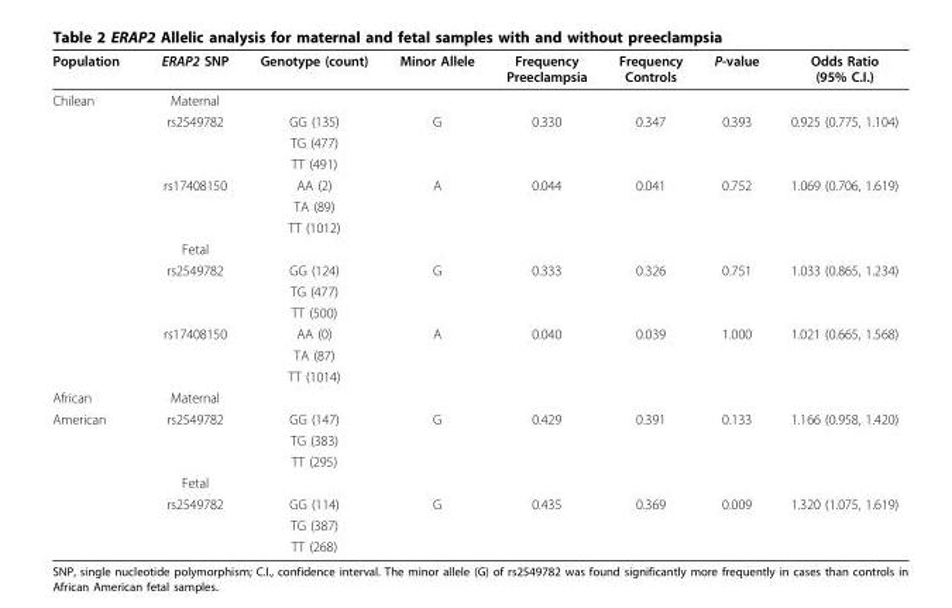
<table><thead><tr><td>Population</td><td>ERAP2 SNP</td><td>Genotype (count)</td><td>Minor Allele</td><td>Frequency Preeclampsia</td><td>Frequency Controls</td><td>P-value</td><td>Odds Ratio (95% C.I.)</td></tr></thead><tbody><tr><td rowspan="14">Chilean</td><td>Maternal</td><td></td><td></td><td></td><td></td><td></td><td></td></tr><tr><td>rs2549782</td><td>GG (135)</td><td>G</td><td>0.330</td><td>0.347</td><td>0.393</td><td>0.925 (0.775, 1.104)</td></tr><tr><td></td><td>TG (477)</td><td></td><td></td><td></td><td></td><td></td></tr><tr><td></td><td>TT (491)</td><td></td><td></td><td></td><td></td><td></td></tr><tr><td>rs17408150</td><td>AA (2)</td><td>A</td><td>0.044</td><td>0.041</td><td>0.752</td><td>1.069 (0.706, 1.619)</td></tr><tr><td></td><td>TA (89)</td><td></td><td></td><td></td><td></td><td></td></tr><tr><td></td><td>TT (1012)</td><td></td><td></td><td></td><td></td><td></td></tr><tr><td>Fetal</td><td></td><td></td><td></td><td></td><td></td><td></td></tr><tr><td>rs2549782</td><td>GG (124)</td><td>G</td><td>0.333</td><td>0.326</td><td>0.751</td><td>1.033 (0.865, 1.234)</td></tr><tr><td></td><td>TG (477)</td><td></td><td></td><td></td><td></td><td></td></tr><tr><td></td><td>TT (500)</td><td></td><td></td><td></td><td></td><td></td></tr><tr><td>rs17408150</td><td>AA (0)</td><td>A</td><td>0.040</td><td>0.039</td><td>1.000</td><td>1.021 (0.665, 1.568)</td></tr><tr><td></td><td>TA (87)</td><td></td><td></td><td></td><td></td><td></td></tr><tr><td></td><td>TT (1014)</td><td></td><td></td><td></td><td></td><td></td></tr><tr><td>African</td><td>Maternal</td><td></td><td></td><td></td><td></td><td></td><td></td></tr><tr><td rowspan="7">American</td><td>rs2549782</td><td>GG (147)</td><td>G</td><td>0.429</td><td>0.391</td><td>0.133</td><td>1.166 (0.958, 1.420)</td></tr><tr><td></td><td>TG (383)</td><td></td><td></td><td></td><td></td><td></td></tr><tr><td></td><td>TT (295)</td><td></td><td></td><td></td><td></td><td></td></tr><tr><td>Fetal</td><td></td><td></td><td></td><td></td><td></td><td></td></tr><tr><td>rs2549782</td><td>GG (114)</td><td>G</td><td>0.435</td><td>0.369</td><td>0.009</td><td>1.320 (1.075, 1.619)</td></tr><tr><td></td><td>TG (387)</td><td></td><td></td><td></td><td></td><td></td></tr><tr><td></td><td>TT (268)</td><td></td><td></td><td></td><td></td><td></td></tr></tbody></table>